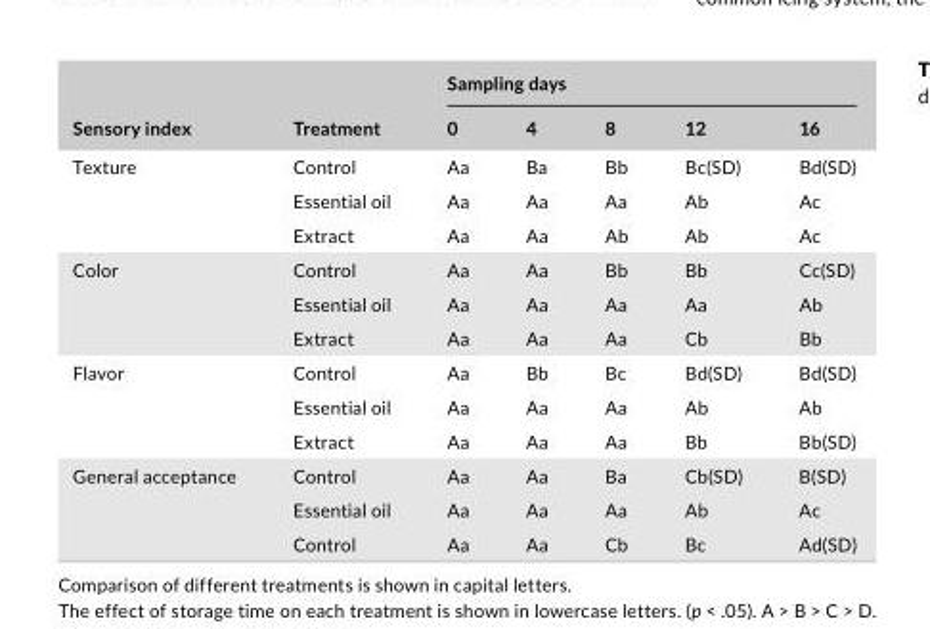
<table><thead><tr><td rowspan="2">Sensory index</td><td rowspan="2">Treatment</td><td colspan="5">Sampling days</td></tr><tr><td>0</td><td>4</td><td>8</td><td>12</td><td>16</td></tr></thead><tbody><tr><td rowspan="3">Texture</td><td>Control</td><td>Aa</td><td>Ba</td><td>Bb</td><td>Bc(SD)</td><td>Bd(SD)</td></tr><tr><td>Essential oil</td><td>Aa</td><td>Aa</td><td>Aa</td><td>Ab</td><td>Ac</td></tr><tr><td>Extract</td><td>Aa</td><td>Aa</td><td>Ab</td><td>Ab</td><td>Ac</td></tr><tr><td rowspan="3">Color</td><td>Control</td><td>Aa</td><td>Aa</td><td>Bb</td><td>Bb</td><td>Cc(SD)</td></tr><tr><td>Essential oil</td><td>Aa</td><td>Aa</td><td>Aa</td><td>Aa</td><td>Ab</td></tr><tr><td>Extract</td><td>Aa</td><td>Aa</td><td>Aa</td><td>Cb</td><td>Bb</td></tr><tr><td rowspan="3">Flavor</td><td>Control</td><td>Aa</td><td>Bb</td><td>Bc</td><td>Bd(SD)</td><td>Bd(SD)</td></tr><tr><td>Essential oil</td><td>Aa</td><td>Aa</td><td>Aa</td><td>Ab</td><td>Ab</td></tr><tr><td>Extract</td><td>Aa</td><td>Aa</td><td>Aa</td><td>Bb</td><td>Bb(SD)</td></tr><tr><td rowspan="3">General acceptance</td><td>Control</td><td>Aa</td><td>Aa</td><td>Ba</td><td>Cb(SD)</td><td>B(SD)</td></tr><tr><td>Essential oil</td><td>Aa</td><td>Aa</td><td>Aa</td><td>Ab</td><td>Ac</td></tr><tr><td>Control</td><td>Aa</td><td>Aa</td><td>Cb</td><td>Bc</td><td>Ad(SD)</td></tr></tbody></table>